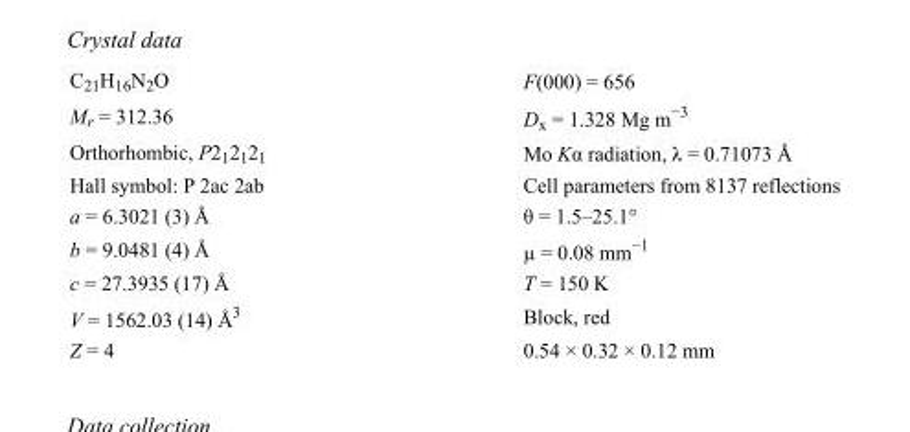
<table><tbody><tr><td>C<sub>21</sub>H<sub>16</sub>N<sub>2</sub>O</td><td>F(000) = 656</td></tr><tr><td>M<sub>r</sub> = 312.36</td><td>D<sub>x</sub> = 1.328 Mg m<sup>−3</sup></td></tr><tr><td>Orthorhombic, P2<sub>1</sub>2<sub>1</sub>2<sub>1</sub></td><td>Mo Kα radiation, λ = 0.71073 Å</td></tr><tr><td>Hall symbol: P 2ac 2ab</td><td>Cell parameters from 8137 reflections</td></tr><tr><td>a = 6.3021 (3) Å</td><td>θ = 1.5–25.1°</td></tr><tr><td>b = 9.0481 (4) Å</td><td>µ = 0.08 mm<sup>−1</sup></td></tr><tr><td>c = 27.3935 (17) Å</td><td>T = 150 K</td></tr><tr><td>V = 1562.03 (14) Å<sup>3</sup></td><td>Block, red</td></tr><tr><td>Z = 4</td><td>0.54 × 0.32 × 0.12 mm</td></tr></tbody></table>